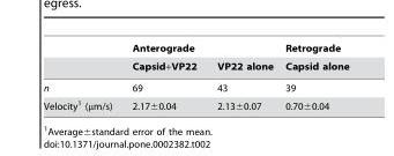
<table><thead><tr><td rowspan="2"></td><td colspan="2">Anterograde</td><td rowspan="2">Retrograde Capsid alone</td></tr><tr><td>Capsid+VP22</td><td>VP22 alone</td></tr></thead><tbody><tr><td>n</td><td>69</td><td>43</td><td>39</td></tr><tr><td>Velocity<sup>1</sup> (μm/s)</td><td>2.17±0.04</td><td>2.13±0.07</td><td>0.70±0.04</td></tr></tbody></table>